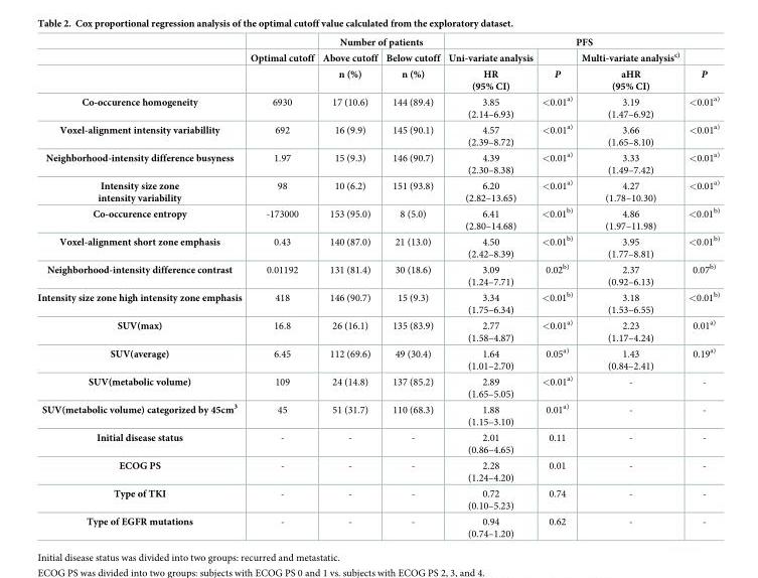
<table><thead><tr><td rowspan="3"></td><td rowspan="3">Optimal cutoff</td><td colspan="2">Number of patients</td><td colspan="4">PFS</td></tr><tr><td rowspan="2">Above cutoff n (%)</td><td rowspan="2">Below cutoff n (%)</td><td rowspan="2">Uni-variate analysis HR (95% CI)</td><td rowspan="2">P</td><td rowspan="2">Multi-variate analysis<sup>c)</sup> aHR (95% CI)</td><td rowspan="2">P</td></tr><tr></tr></thead><tbody><tr><td>Co-occurence homogeneity</td><td>6930</td><td>17 (10.6)</td><td>144 (89.4)</td><td>3.85 (2.14–6.93)</td><td>&lt;0.01<sup>a)</sup></td><td>3.19 (1.47–6.92)</td><td>&lt;0.01<sup>a)</sup></td></tr><tr><td>Voxel-alignment intensity variabillity</td><td>692</td><td>16 (9.9)</td><td>145 (90.1)</td><td>4.57 (2.39–8.72)</td><td>&lt;0.01<sup>a)</sup></td><td>3.66 (1.65–8.10)</td><td>&lt;0.01<sup>a)</sup></td></tr><tr><td>Neighborhood-intensity difference busyness</td><td>1.97</td><td>15 (9.3)</td><td>146 (90.7)</td><td>4.39 (2.30–8.38)</td><td>&lt;0.01<sup>a)</sup></td><td>3.33 (1.49–7.42)</td><td>&lt;0.01<sup>a)</sup></td></tr><tr><td>Intensity size zone intensity variability</td><td>98</td><td>10 (6.2)</td><td>151 (93.8)</td><td>6.20 (2.82–13.65)</td><td>&lt;0.01<sup>a)</sup></td><td>4.27 (1.78–10.30)</td><td>&lt;0.01<sup>a)</sup></td></tr><tr><td>Co-occurence entropy</td><td>-173000</td><td>153 (95.0)</td><td>8 (5.0)</td><td>6.41 (2.80–14.68)</td><td>&lt;0.01<sup>b)</sup></td><td>4.86 (1.97–11.98)</td><td>&lt;0.01<sup>b)</sup></td></tr><tr><td>Voxel-alignment short zone emphasis</td><td>0.43</td><td>140 (87.0)</td><td>21 (13.0)</td><td>4.50 (2.42–8.39)</td><td>&lt;0.01<sup>b)</sup></td><td>3.95 (1.77–8.81)</td><td>&lt;0.01<sup>b)</sup></td></tr><tr><td>Neighborhood-intensity difference contrast</td><td>0.01192</td><td>131 (81.4)</td><td>30 (18.6)</td><td>3.09 (1.24–7.71)</td><td>0.02<sup>b)</sup></td><td>2.37 (0.92–6.13)</td><td>0.07<sup>b)</sup></td></tr><tr><td>Intensity size zone high intensity zone emphasis</td><td>418</td><td>146 (90.7)</td><td>15 (9.3)</td><td>3.34 (1.75–6.34)</td><td>&lt;0.01<sup>b)</sup></td><td>3.18 (1.53–6.55)</td><td>&lt;0.01<sup>b)</sup></td></tr><tr><td>SUV(max)</td><td>16.8</td><td>26 (16.1)</td><td>135 (83.9)</td><td>2.77 (1.58–4.87)</td><td>&lt;0.01<sup>a)</sup></td><td>2.23 (1.17–4.24)</td><td>0.01<sup>a)</sup></td></tr><tr><td>SUV(average)</td><td>6.45</td><td>112 (69.6)</td><td>49 (30.4)</td><td>1.64 (1.01–2.70)</td><td>0.05<sup>a)</sup></td><td>1.43 (0.84–2.41)</td><td>0.19<sup>a)</sup></td></tr><tr><td>SUV(metabolic volume)</td><td>109</td><td>24 (14.8)</td><td>137 (85.2)</td><td>2.89 (1.65–5.05)</td><td>&lt;0.01<sup>a)</sup></td><td>-</td><td>-</td></tr><tr><td>SUV(metabolic volume) categorized by 45cm<sup>3</sup></td><td>45</td><td>51 (31.7)</td><td>110 (68.3)</td><td>1.88 (1.15–3.10)</td><td>0.01<sup>a)</sup></td><td>-</td><td>-</td></tr><tr><td>Initial disease status</td><td>-</td><td>-</td><td>-</td><td>2.01 (0.86–4.65)</td><td>0.11</td><td>-</td><td>-</td></tr><tr><td>ECOG PS</td><td>-</td><td>-</td><td>-</td><td>2.28 (1.24–4.20)</td><td>0.01</td><td>-</td><td>-</td></tr><tr><td>Type of TKI</td><td>-</td><td>-</td><td>-</td><td>0.72 (0.10–5.23)</td><td>0.74</td><td>-</td><td>-</td></tr><tr><td>Type of EGFR mutations</td><td>-</td><td>-</td><td>-</td><td>0.94 (0.74–1.20)</td><td>0.62</td><td>-</td><td>-</td></tr></tbody></table>